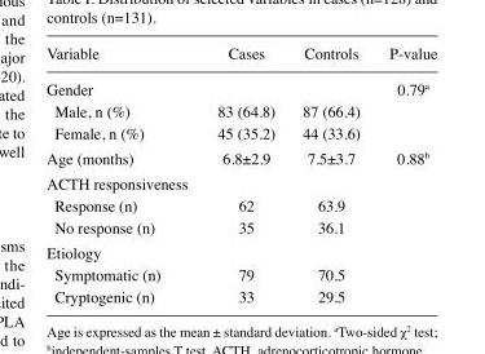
<table><thead><tr><td>Variable</td><td>Cases</td><td>Controls</td><td>P-value</td></tr></thead><tbody><tr><td>Gender</td><td></td><td></td><td>0.79<sup>a</sup></td></tr><tr><td>Male, n (%)</td><td>83 (64.8)</td><td>87 (66.4)</td><td></td></tr><tr><td>Female, n (%)</td><td>45 (35.2)</td><td>44 (33.6)</td><td></td></tr><tr><td>Age (months)</td><td>6.8±2.9</td><td>7.5±3.7</td><td>0.88<sup>b</sup></td></tr><tr><td colspan="4">ACTH responsiveness</td></tr><tr><td>Response (n)</td><td>62</td><td>63.9</td><td></td></tr><tr><td>No response (n)</td><td>35</td><td>36.1</td><td></td></tr><tr><td colspan="4">Etiology</td></tr><tr><td>Symptomatic (n)</td><td>79</td><td>70.5</td><td></td></tr><tr><td>Cryptogenic (n)</td><td>33</td><td>29.5</td><td></td></tr></tbody></table>